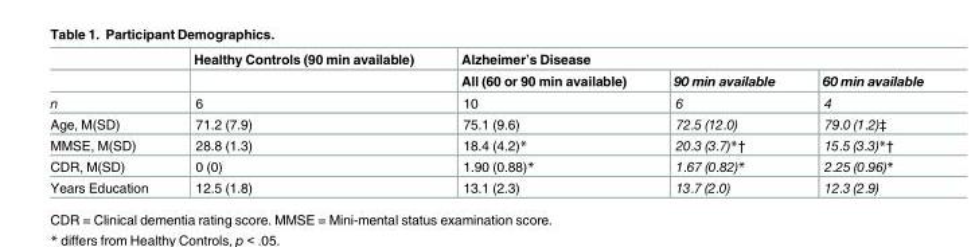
<table><thead><tr><td rowspan="2"></td><td rowspan="2">Healthy Controls (90 min available)</td><td colspan="3">Alzheimer’s Disease</td></tr><tr><td>All (60 or 90 min available)</td><td>90 min available</td><td>60 min available</td></tr></thead><tbody><tr><td>n</td><td>6</td><td>10</td><td>6</td><td>4</td></tr><tr><td>Age, M(SD)</td><td>71.2 (7.9)</td><td>75.1 (9.6)</td><td>72.5 (12.0)</td><td>79.0 (1.2)‡</td></tr><tr><td>MMSE, M(SD)</td><td>28.8 (1.3)</td><td>18.4 (4.2)*</td><td>20.3 (3.7)*†</td><td>15.5 (3.3)*†</td></tr><tr><td>CDR, M(SD)</td><td>0 (0)</td><td>1.90 (0.88)*</td><td>1.67 (0.82)*</td><td>2.25 (0.96)*</td></tr><tr><td>Years Education</td><td>12.5 (1.8)</td><td>13.1 (2.3)</td><td>13.7 (2.0)</td><td>12.3 (2.9)</td></tr></tbody></table>